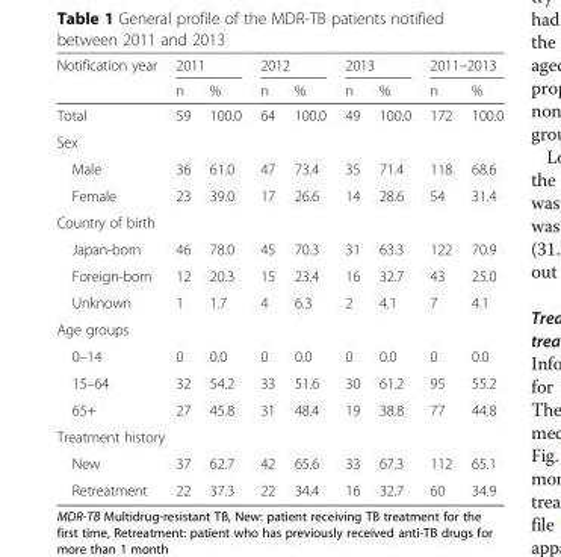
<table><thead><tr><td rowspan="2">Notification year</td><td colspan="2">2011</td><td colspan="2">2012</td><td colspan="2">2013</td><td colspan="2">2011–2013</td></tr><tr><td>n</td><td>%</td><td>n</td><td>%</td><td>n</td><td>%</td><td>n</td><td>%</td></tr></thead><tbody><tr><td>Total</td><td>59</td><td>100.0</td><td>64</td><td>100.0</td><td>49</td><td>100.0</td><td>172</td><td>100.0</td></tr><tr><td colspan="9">Sex</td></tr><tr><td>Male</td><td>36</td><td>61.0</td><td>47</td><td>73.4</td><td>35</td><td>71.4</td><td>118</td><td>68.6</td></tr><tr><td>Female</td><td>23</td><td>39.0</td><td>17</td><td>26.6</td><td>14</td><td>28.6</td><td>54</td><td>31.4</td></tr><tr><td colspan="9">Country of birth</td></tr><tr><td>Japan-born</td><td>46</td><td>78.0</td><td>45</td><td>70.3</td><td>31</td><td>63.3</td><td>122</td><td>70.9</td></tr><tr><td>Foreign-born</td><td>12</td><td>20.3</td><td>15</td><td>23.4</td><td>16</td><td>32.7</td><td>43</td><td>25.0</td></tr><tr><td>Unknown</td><td>1</td><td>1.7</td><td>4</td><td>6.3</td><td>2</td><td>4.1</td><td>7</td><td>4.1</td></tr><tr><td colspan="9">Age groups</td></tr><tr><td>0–14</td><td>0</td><td>0.0</td><td>0</td><td>0.0</td><td>0</td><td>0.0</td><td>0</td><td>0.0</td></tr><tr><td>15–64</td><td>32</td><td>54.2</td><td>33</td><td>51.6</td><td>30</td><td>61.2</td><td>95</td><td>55.2</td></tr><tr><td>65+</td><td>27</td><td>45.8</td><td>31</td><td>48.4</td><td>19</td><td>38.8</td><td>77</td><td>44.8</td></tr><tr><td colspan="9">Treatment history</td></tr><tr><td>New</td><td>37</td><td>62.7</td><td>42</td><td>65.6</td><td>33</td><td>67.3</td><td>112</td><td>65.1</td></tr><tr><td>Retreatment</td><td>22</td><td>37.3</td><td>22</td><td>34.4</td><td>16</td><td>32.7</td><td>60</td><td>34.9</td></tr></tbody></table>